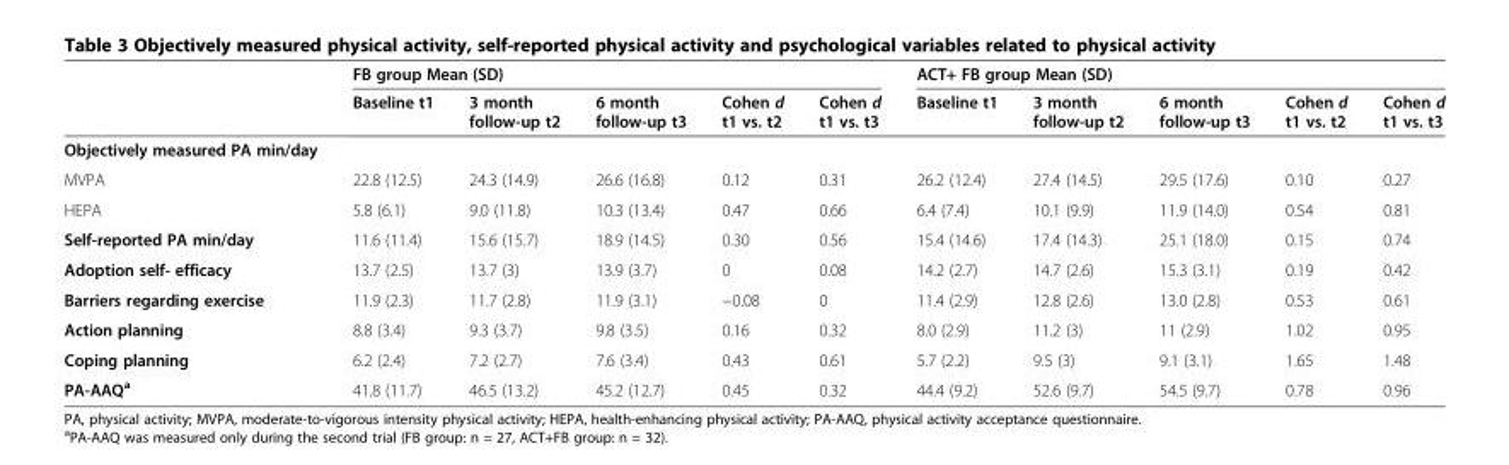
<table><thead><tr><td rowspan="2"></td><td colspan="5">FB group Mean (SD)</td><td colspan="5">ACT+ FB group Mean (SD)</td></tr><tr><td>Baseline t1</td><td>3 month follow-up t2</td><td>6 month follow-up t3</td><td>Cohen d t1 vs. t2</td><td>Cohen d t1 vs. t3</td><td>Baseline t1</td><td>3 month follow-up t2</td><td>6 month follow-up t3</td><td>Cohen d t1 vs. t2</td><td>Cohen d t1 vs. t3</td></tr></thead><tbody><tr><td colspan="11">Objectively measured PA min/day</td></tr><tr><td>MVPA</td><td>22.8 (12.5)</td><td>24.3 (14.9)</td><td>26.6 (16.8)</td><td>0.12</td><td>0.31</td><td>26.2 (12.4)</td><td>27.4 (14.5)</td><td>29.5 (17.6)</td><td>0.10</td><td>0.27</td></tr><tr><td>HEPA</td><td>5.8 (6.1)</td><td>9.0 (11.8)</td><td>10.3 (13.4)</td><td>0.47</td><td>0.66</td><td>6.4 (7.4)</td><td>10.1 (9.9)</td><td>11.9 (14.0)</td><td>0.54</td><td>0.81</td></tr><tr><td>Self-reported PA min/day</td><td>11.6 (11.4)</td><td>15.6 (15.7)</td><td>18.9 (14.5)</td><td>0.30</td><td>0.56</td><td>15.4 (14.6)</td><td>17.4 (14.3)</td><td>25.1 (18.0)</td><td>0.15</td><td>0.74</td></tr><tr><td>Adoption self- efficacy</td><td>13.7 (2.5)</td><td>13.7 (3)</td><td>13.9 (3.7)</td><td>0</td><td>0.08</td><td>14.2 (2.7)</td><td>14.7 (2.6)</td><td>15.3 (3.1)</td><td>0.19</td><td>0.42</td></tr><tr><td>Barriers regarding exercise</td><td>11.9 (2.3)</td><td>11.7 (2.8)</td><td>11.9 (3.1)</td><td>−0.08</td><td>0</td><td>11.4 (2.9)</td><td>12.8 (2.6)</td><td>13.0 (2.8)</td><td>0.53</td><td>0.61</td></tr><tr><td>Action planning</td><td>8.8 (3.4)</td><td>9.3 (3.7)</td><td>9.8 (3.5)</td><td>0.16</td><td>0.32</td><td>8.0 (2.9)</td><td>11.2 (3)</td><td>11 (2.9)</td><td>1.02</td><td>0.95</td></tr><tr><td>Coping planning</td><td>6.2 (2.4)</td><td>7.2 (2.7)</td><td>7.6 (3.4)</td><td>0.43</td><td>0.61</td><td>5.7 (2.2)</td><td>9.5 (3)</td><td>9.1 (3.1)</td><td>1.65</td><td>1.48</td></tr><tr><td>PA-AAQ<sup>a</sup></td><td>41.8 (11.7)</td><td>46.5 (13.2)</td><td>45.2 (12.7)</td><td>0.45</td><td>0.32</td><td>44.4 (9.2)</td><td>52.6 (9.7)</td><td>54.5 (9.7)</td><td>0.78</td><td>0.96</td></tr></tbody></table>